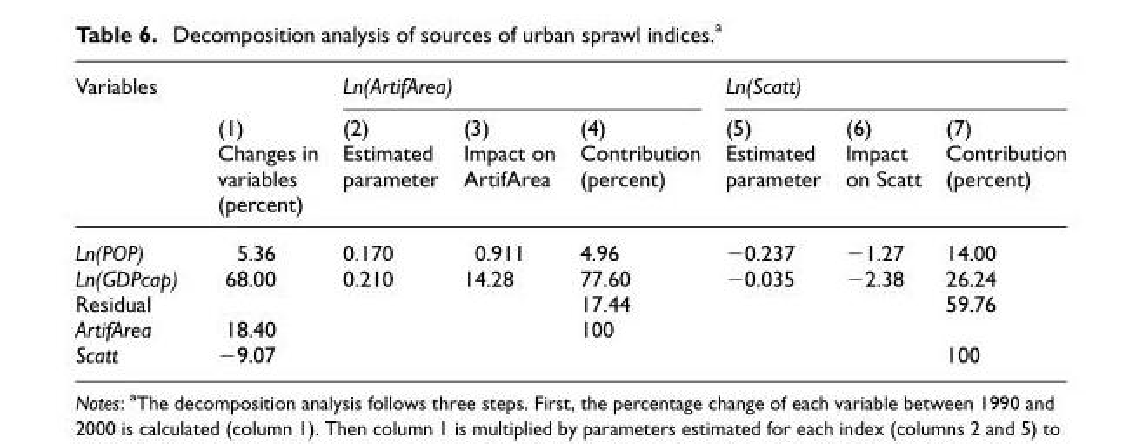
<table><thead><tr><td rowspan="3">Variables</td><td rowspan="3">(1) Changes in variables (percent)</td><td colspan="3">Ln(ArtifArea)</td><td colspan="3">Ln(Scatt)</td></tr><tr><td rowspan="2">(2) Estimated parameter</td><td rowspan="2">(3) Impact on ArtifArea</td><td rowspan="2">(4) Contribution (percent)</td><td rowspan="2">(5) Estimated parameter</td><td rowspan="2">(6) Impact on Scatt</td><td rowspan="2">(7) Contribution (percent)</td></tr><tr></tr></thead><tbody><tr><td>Ln(POP)</td><td>5.36</td><td>0.170</td><td>0.911</td><td>4.96</td><td>−0.237</td><td>−1.27</td><td>14.00</td></tr><tr><td>Ln(GDPcap)</td><td>68.00</td><td>0.210</td><td>14.28</td><td>77.60</td><td>−0.035</td><td>−2.38</td><td>26.24</td></tr><tr><td>Residual</td><td></td><td></td><td></td><td>17.44</td><td></td><td></td><td>59.76</td></tr><tr><td>ArtifArea</td><td>18.40</td><td></td><td></td><td>100</td><td></td><td></td><td></td></tr><tr><td>Scatt</td><td>−9.07</td><td></td><td></td><td></td><td></td><td></td><td>100</td></tr></tbody></table>